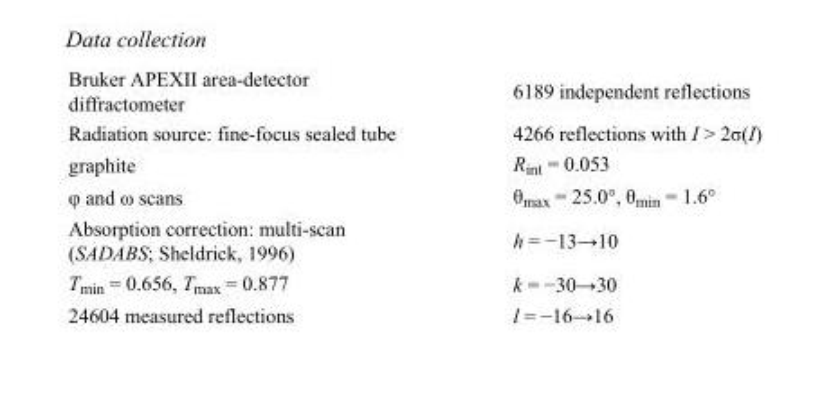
<table><tbody><tr><td>Bruker APEXII area-detector diffractometer</td><td>6189 independent reflections</td></tr><tr><td>Radiation source: fine-focus sealed tube</td><td>4266 reflections with I &gt; 2σ(I)</td></tr><tr><td>graphite</td><td>R<sub>int</sub> = 0.053</td></tr><tr><td>φ and ω scans</td><td>θ<sub>max</sub> = 25.0°, θ<sub>min</sub> = 1.6°</td></tr><tr><td>Absorption correction: multi-scan (SADABS; Sheldrick, 1996)</td><td>h = −13→10</td></tr><tr><td>T<sub>min</sub> = 0.656, T<sub>max</sub> = 0.877</td><td>k = −30→30</td></tr><tr><td>24604 measured reflections</td><td>l = −16→16</td></tr></tbody></table>